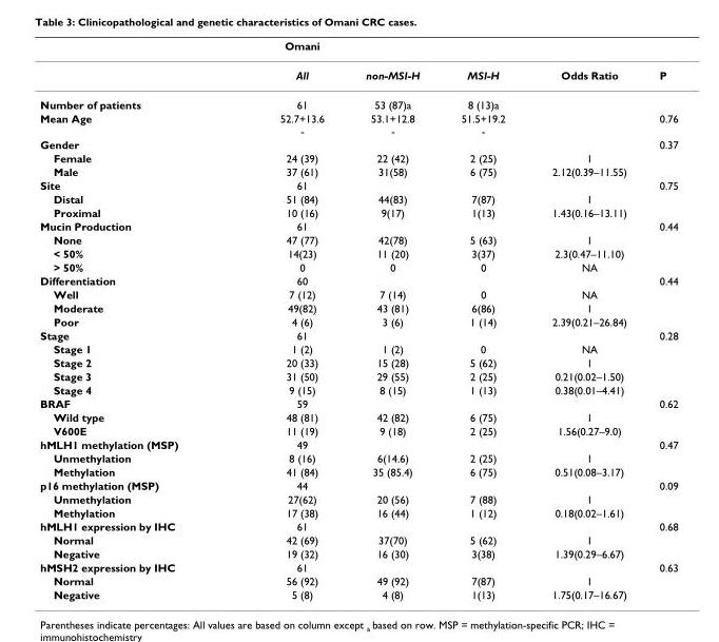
<table><thead><tr><td></td><td>Omani</td><td></td><td></td><td></td><td></td></tr></thead><tbody><tr><td></td><td>All</td><td>non-MSI-H</td><td>MSI-H</td><td>Odds Ratio</td><td>P</td></tr><tr><td>Number of patients</td><td>61</td><td>53 (87)a</td><td>8 (13)a</td><td></td><td></td></tr><tr><td>Mean Age</td><td>52.7+13.6 -</td><td>53.1+12.8 -</td><td>51.5+19.2 -</td><td></td><td>0.76</td></tr><tr><td>Gender</td><td></td><td></td><td></td><td></td><td>0.37</td></tr><tr><td>Female</td><td>24 (39)</td><td>22 (42)</td><td>2 (25)</td><td>1</td><td></td></tr><tr><td>Male</td><td>37 (61)</td><td>31(58)</td><td>6 (75)</td><td>2.12(0.39–11.55)</td><td></td></tr><tr><td>Site</td><td>61</td><td></td><td></td><td></td><td>0.75</td></tr><tr><td>Distal</td><td>51 (84)</td><td>44(83)</td><td>7(87)</td><td>1</td><td></td></tr><tr><td>Proximal</td><td>10 (16)</td><td>9(17)</td><td>1(13)</td><td>1.43(0.16–13.11)</td><td></td></tr><tr><td>Mucin Production</td><td>61</td><td></td><td></td><td></td><td>0.44</td></tr><tr><td>None</td><td>47 (77)</td><td>42(78)</td><td>5 (63)</td><td>1</td><td></td></tr><tr><td>&lt; 50%</td><td>14(23)</td><td>11 (20)</td><td>3(37)</td><td>2.3(0.47–11.10)</td><td></td></tr><tr><td>&gt; 50%</td><td>0</td><td>0</td><td>0</td><td>NA</td><td></td></tr><tr><td>Differentiation</td><td>60</td><td></td><td></td><td></td><td>0.44</td></tr><tr><td>Well</td><td>7 (12)</td><td>7 (14)</td><td>0</td><td>NA</td><td></td></tr><tr><td>Moderate</td><td>49(82)</td><td>43 (81)</td><td>6(86)</td><td>1</td><td></td></tr><tr><td>Poor</td><td>4 (6)</td><td>3 (6)</td><td>1 (14)</td><td>2.39(0.21–26.84)</td><td></td></tr><tr><td>Stage</td><td>61</td><td></td><td></td><td></td><td>0.28</td></tr><tr><td>Stage 1</td><td>1 (2)</td><td>1 (2)</td><td>0</td><td>NA</td><td></td></tr><tr><td>Stage 2</td><td>20 (33)</td><td>15 (28)</td><td>5 (62)</td><td>1</td><td></td></tr><tr><td>Stage 3</td><td>31 (50)</td><td>29 (55)</td><td>2 (25)</td><td>0.21(0.02–1.50)</td><td></td></tr><tr><td>Stage 4</td><td>9 (15)</td><td>8 (15)</td><td>1 (13)</td><td>0.38(0.01–4.41)</td><td></td></tr><tr><td>BRAF</td><td>59</td><td></td><td></td><td></td><td>0.62</td></tr><tr><td>Wild type</td><td>48 (81)</td><td>42 (82)</td><td>6 (75)</td><td>1</td><td></td></tr><tr><td>V600E</td><td>11 (19)</td><td>9 (18)</td><td>2 (25)</td><td>1.56(0.27–9.0)</td><td></td></tr><tr><td>hMLH1 methylation (MSP)</td><td>49</td><td></td><td></td><td></td><td>0.47</td></tr><tr><td>Unmethylation</td><td>8 (16)</td><td>6(14.6)</td><td>2 (25)</td><td>1</td><td></td></tr><tr><td>Methylation</td><td>41 (84)</td><td>35 (85.4)</td><td>6 (75)</td><td>0.51(0.08–3.17)</td><td></td></tr><tr><td>p16 methylation (MSP)</td><td>44</td><td></td><td></td><td></td><td>0.09</td></tr><tr><td>Unmethylation</td><td>27(62)</td><td>20 (56)</td><td>7 (88)</td><td>1</td><td></td></tr><tr><td>Methylation</td><td>17 (38)</td><td>16 (44)</td><td>1 (12)</td><td>0.18(0.02–1.61)</td><td></td></tr><tr><td>hMLH1 expression by IHC</td><td>61</td><td></td><td></td><td></td><td>0.68</td></tr><tr><td>Normal</td><td>42 (69)</td><td>37(70)</td><td>5 (62)</td><td>1</td><td></td></tr><tr><td>Negative</td><td>19 (32)</td><td>16 (30)</td><td>3(38)</td><td>1.39(0.29–6.67)</td><td></td></tr><tr><td>hMSH2 expression by IHC</td><td>61</td><td></td><td></td><td></td><td>0.63</td></tr><tr><td>Normal</td><td>56 (92)</td><td>49 (92)</td><td>7(87)</td><td>1</td><td></td></tr><tr><td>Negative</td><td>5 (8)</td><td>4 (8)</td><td>1(13)</td><td>1.75(0.17–16.67)</td><td></td></tr></tbody></table>